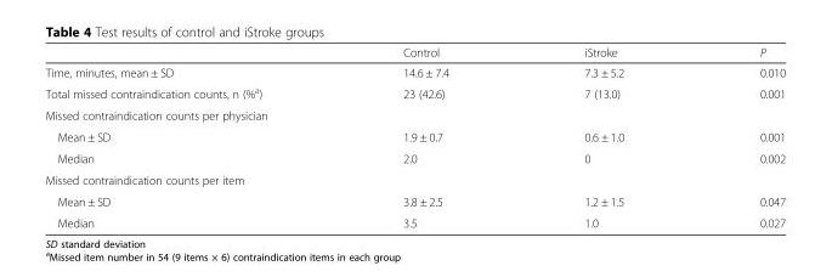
<table><thead><tr><td></td><td>Control</td><td>iStroke</td><td>P</td></tr></thead><tbody><tr><td>Time, minutes, mean ± SD</td><td>14.6 ± 7.4</td><td>7.3 ± 5.2</td><td>0.010</td></tr><tr><td>Total missed contraindication counts, n (%<sup>a</sup>)</td><td>23 (42.6)</td><td>7 (13.0)</td><td>0.001</td></tr><tr><td colspan="4">Missed contraindication counts per physician</td></tr><tr><td>Mean ± SD</td><td>1.9 ± 0.7</td><td>0.6 ± 1.0</td><td>0.001</td></tr><tr><td>Median</td><td>2.0</td><td>0</td><td>0.002</td></tr><tr><td colspan="4">Missed contraindication counts per item</td></tr><tr><td>Mean ± SD</td><td>3.8 ± 2.5</td><td>1.2 ± 1.5</td><td>0.047</td></tr><tr><td>Median</td><td>3.5</td><td>1.0</td><td>0.027</td></tr></tbody></table>